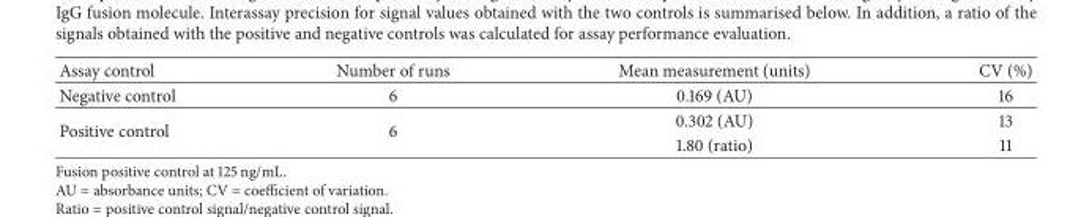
<table><thead><tr><td>Assay control</td><td>Number of runs</td><td>Mean measurement (units)</td><td>CV (%)</td></tr></thead><tbody><tr><td>Negative control</td><td>6</td><td>0.169 (AU)</td><td>16</td></tr><tr><td rowspan="2">Positive control</td><td rowspan="2">6</td><td>0.302 (AU)</td><td>13</td></tr><tr><td>1.80 (ratio)</td><td>11</td></tr></tbody></table>